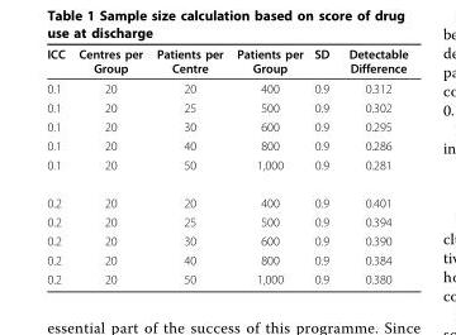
<table><thead><tr><td>ICC</td><td>Centres per Group</td><td>Patients per Centre</td><td>Patients per Group</td><td>SD</td><td>Detectable Difference</td></tr></thead><tbody><tr><td>0.1</td><td>20</td><td>20</td><td>400</td><td>0.9</td><td>0.312</td></tr><tr><td>0.1</td><td>20</td><td>25</td><td>500</td><td>0.9</td><td>0.302</td></tr><tr><td>0.1</td><td>20</td><td>30</td><td>600</td><td>0.9</td><td>0.295</td></tr><tr><td>0.1</td><td>20</td><td>40</td><td>800</td><td>0.9</td><td>0.286</td></tr><tr><td>0.1</td><td>20</td><td>50</td><td>1,000</td><td>0.9</td><td>0.281</td></tr><tr><td>0.2</td><td>20</td><td>20</td><td>400</td><td>0.9</td><td>0.401</td></tr><tr><td>0.2</td><td>20</td><td>25</td><td>500</td><td>0.9</td><td>0.394</td></tr><tr><td>0.2</td><td>20</td><td>30</td><td>600</td><td>0.9</td><td>0.390</td></tr><tr><td>0.2</td><td>20</td><td>40</td><td>800</td><td>0.9</td><td>0.384</td></tr><tr><td>0.2</td><td>20</td><td>50</td><td>1,000</td><td>0.9</td><td>0.380</td></tr></tbody></table>